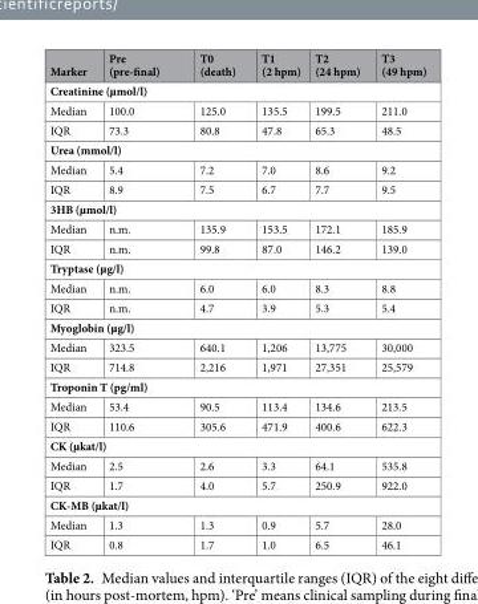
<table><thead><tr><td>Marker</td><td>Pre (pre-final)</td><td>T0 (death)</td><td>T1 (2 hpm)</td><td>T2 (24 hpm)</td><td>T3 (49 hpm)</td></tr></thead><tbody><tr><td colspan="6">Creatinine (µmol/l)</td></tr><tr><td>Median</td><td>100.0</td><td>125.0</td><td>135.5</td><td>199.5</td><td>211.0</td></tr><tr><td>IQR</td><td>73.3</td><td>80.8</td><td>47.8</td><td>65.3</td><td>48.5</td></tr><tr><td colspan="6">Urea (mmol/l)</td></tr><tr><td>Median</td><td>5.4</td><td>7.2</td><td>7.0</td><td>8.6</td><td>9.2</td></tr><tr><td>IQR</td><td>8.9</td><td>7.5</td><td>6.7</td><td>7.7</td><td>9.5</td></tr><tr><td colspan="6">3HB (µmol/l)</td></tr><tr><td>Median</td><td>n.m.</td><td>135.9</td><td>153.5</td><td>172.1</td><td>185.9</td></tr><tr><td>IQR</td><td>n.m.</td><td>99.8</td><td>87.0</td><td>146.2</td><td>139.0</td></tr><tr><td colspan="6">Tryptase (µg/l)</td></tr><tr><td>Median</td><td>n.m.</td><td>6.0</td><td>6.0</td><td>8.3</td><td>8.8</td></tr><tr><td>IQR</td><td>n.m.</td><td>4.7</td><td>3.9</td><td>5.3</td><td>5.4</td></tr><tr><td colspan="6">Myoglobin (µg/l)</td></tr><tr><td>Median</td><td>323.5</td><td>640.1</td><td>1,206</td><td>13,775</td><td>30,000</td></tr><tr><td>IQR</td><td>714.8</td><td>2,216</td><td>1,971</td><td>27,351</td><td>25,579</td></tr><tr><td colspan="6">Troponin T (pg/ml)</td></tr><tr><td>Median</td><td>53.4</td><td>90.5</td><td>113.4</td><td>134.6</td><td>213.5</td></tr><tr><td>IQR</td><td>110.6</td><td>305.6</td><td>471.9</td><td>400.6</td><td>622.3</td></tr><tr><td colspan="6">CK (µkat/l)</td></tr><tr><td>Median</td><td>2.5</td><td>2.6</td><td>3.3</td><td>64.1</td><td>535.8</td></tr><tr><td>IQR</td><td>1.7</td><td>4.0</td><td>5.7</td><td>250.9</td><td>922.0</td></tr><tr><td colspan="6">CK-MB (µkat/l)</td></tr><tr><td>Median</td><td>1.3</td><td>1.3</td><td>0.9</td><td>5.7</td><td>28.0</td></tr><tr><td>IQR</td><td>0.8</td><td>1.7</td><td>1.0</td><td>6.5</td><td>46.1</td></tr></tbody></table>